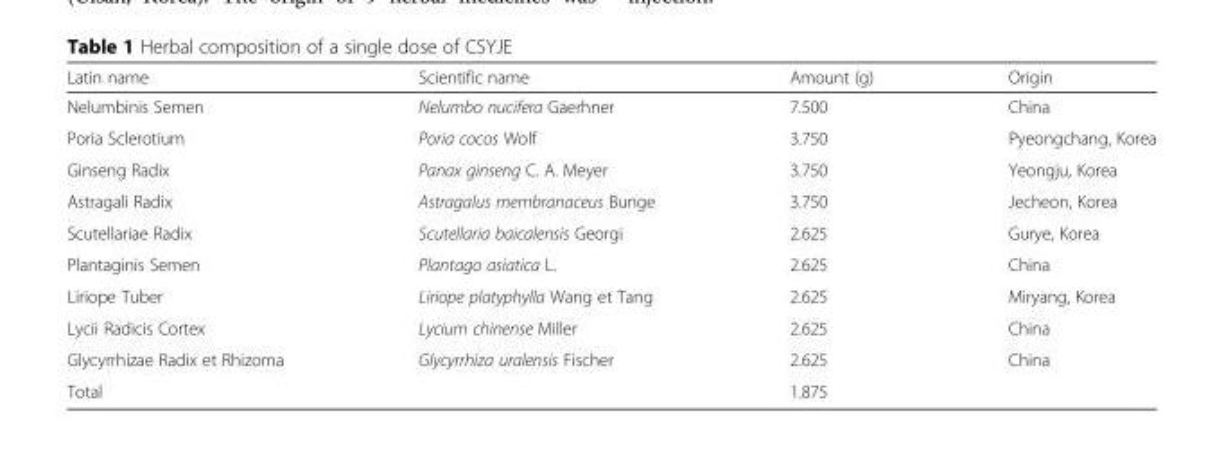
<table><thead><tr><td>Latin name</td><td>Scientific name</td><td>Amount (g)</td><td>Origin</td></tr></thead><tbody><tr><td>Nelumbinis Semen</td><td>Nelumbo nucifera Gaerhner</td><td>7.500</td><td>China</td></tr><tr><td>Poria Sclerotium</td><td>Poria cocos Wolf</td><td>3.750</td><td>Pyeongchang, Korea</td></tr><tr><td>Ginseng Radix</td><td>Panax ginseng C. A. Meyer</td><td>3.750</td><td>Yeongju, Korea</td></tr><tr><td>Astragali Radix</td><td>Astragalus membranaceus Bunge</td><td>3.750</td><td>Jecheon, Korea</td></tr><tr><td>Scutellariae Radix</td><td>Scutellaria baicalensis Georgi</td><td>2.625</td><td>Gurye, Korea</td></tr><tr><td>Plantaginis Semen</td><td>Plantago asiatica L.</td><td>2.625</td><td>China</td></tr><tr><td>Liriope Tuber</td><td>Liriope platyphylla Wang et Tang</td><td>2.625</td><td>Miryang, Korea</td></tr><tr><td>Lycii Radicis Cortex</td><td>Lycium chinense Miller</td><td>2.625</td><td>China</td></tr><tr><td>Glycyrrhizae Radix et Rhizoma</td><td>Glycyrrhiza uralensis Fischer</td><td>2.625</td><td>China</td></tr><tr><td>Total</td><td></td><td>1.875</td><td></td></tr></tbody></table>